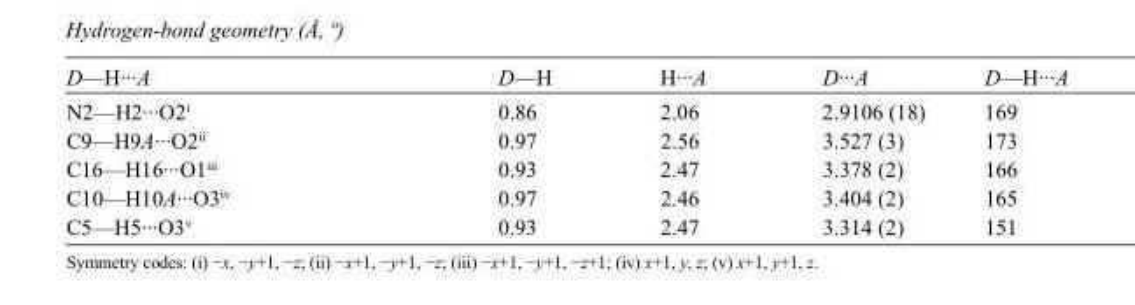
<table><tbody><tr><td>D—H···A</td><td>D—H</td><td>H···A</td><td>D···A</td><td>D—H···A</td></tr><tr><td>N2—H2···O2<sup>i</sup></td><td>0.86</td><td>2.06</td><td>2.9106 (18)</td><td>169</td></tr><tr><td>C9—H9A···O2<sup>ii</sup></td><td>0.97</td><td>2.56</td><td>3.527 (3)</td><td>173</td></tr><tr><td>C16—H16···O1<sup>iii</sup></td><td>0.93</td><td>2.47</td><td>3.378 (2)</td><td>166</td></tr><tr><td>C10—H10A···O3<sup>iv</sup></td><td>0.97</td><td>2.46</td><td>3.404 (2)</td><td>165</td></tr><tr><td>C5—H5···O3<sup>v</sup></td><td>0.93</td><td>2.47</td><td>3.314 (2)</td><td>151</td></tr></tbody></table>